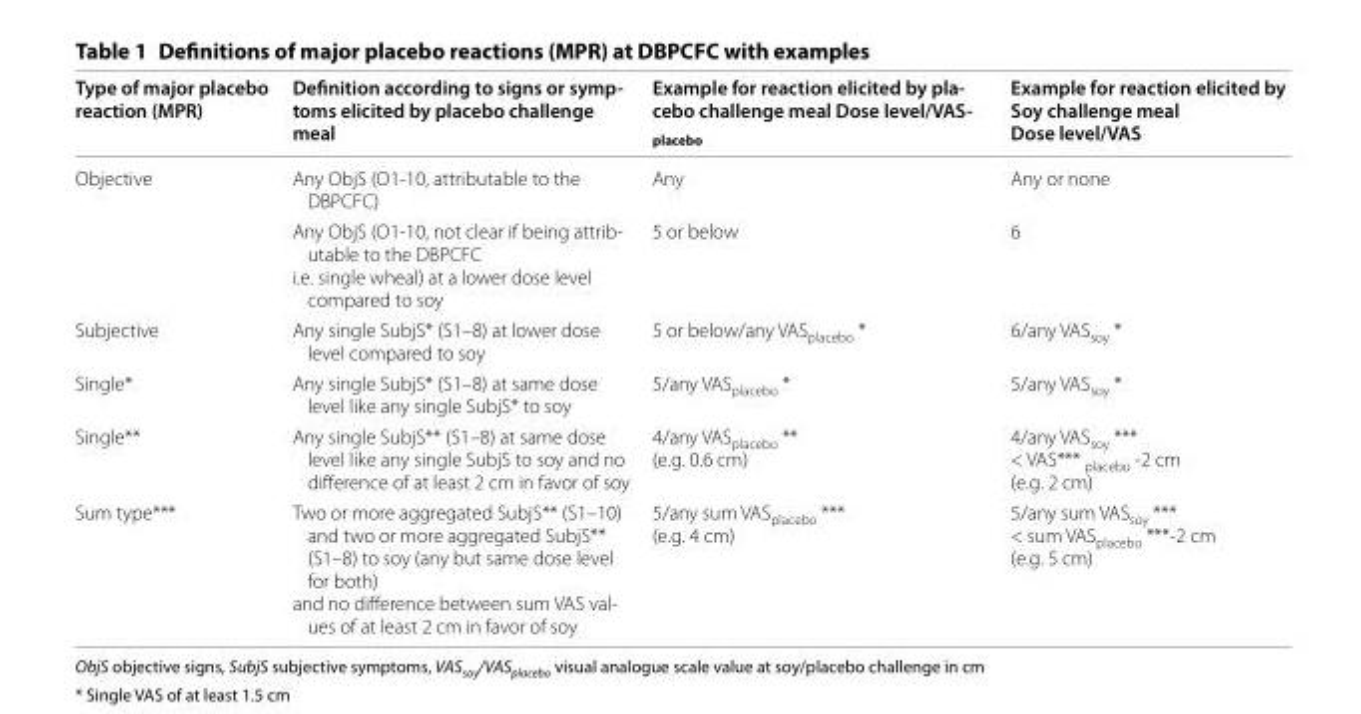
<table><thead><tr><td>Type of major placebo reaction (MPR)</td><td>Definition according to signs or symp- toms elicited by placebo challenge meal</td><td>Example for reaction elicited by pla- cebo challenge meal Dose level/VAS- placebo</td><td>Example for reaction elicited by Soy challenge meal Dose level/VAS</td></tr></thead><tbody><tr><td rowspan="2">Objective</td><td>Any ObjS (O1‑10, attributable to the DBPCFC)</td><td>Any</td><td>Any or none</td></tr><tr><td>Any ObjS (O1‑10, not clear if being attrib‑ utable to the DBPCFC i.e. single wheal) at a lower dose level compared to soy</td><td>5 or below</td><td>6</td></tr><tr><td>Subjective</td><td>Any single SubjS* (S1–8) at lower dose level compared to soy</td><td>5 or below/any VAS<sub>placebo</sub> *</td><td>6/any VAS<sub>soy</sub> *</td></tr><tr><td>Single*</td><td>Any single SubjS* (S1–8) at same dose level like any single SubjS* to soy</td><td>5/any VAS<sub>placebo</sub> *</td><td>5/any VAS<sub>soy</sub> *</td></tr><tr><td>Single**</td><td>Any single SubjS** (S1–8) at same dose level like any single SubjS to soy and no difference of at least 2 cm in favor of soy</td><td>4/any VAS<sub>placebo</sub> ** (e.g. 0.6 cm)</td><td>4/any VAS<sub>soy</sub> *** &lt; VAS*** <sub>placebo</sub> ‑2 cm (e.g. 2 cm)</td></tr><tr><td>Sum type***</td><td>Two or more aggregated SubjS** (S1–10) and two or more aggregated SubjS** (S1–8) to soy (any but same dose level for both) and no difference between sum VAS val‑ ues of at least 2 cm in favor of soy</td><td>5/any sum VAS<sub>placebo</sub> *** (e.g. 4 cm)</td><td>5/any sum VAS<sub>soy</sub> *** &lt; sum VAS<sub>placebo</sub> ***‑2 cm (e.g. 5 cm)</td></tr></tbody></table>